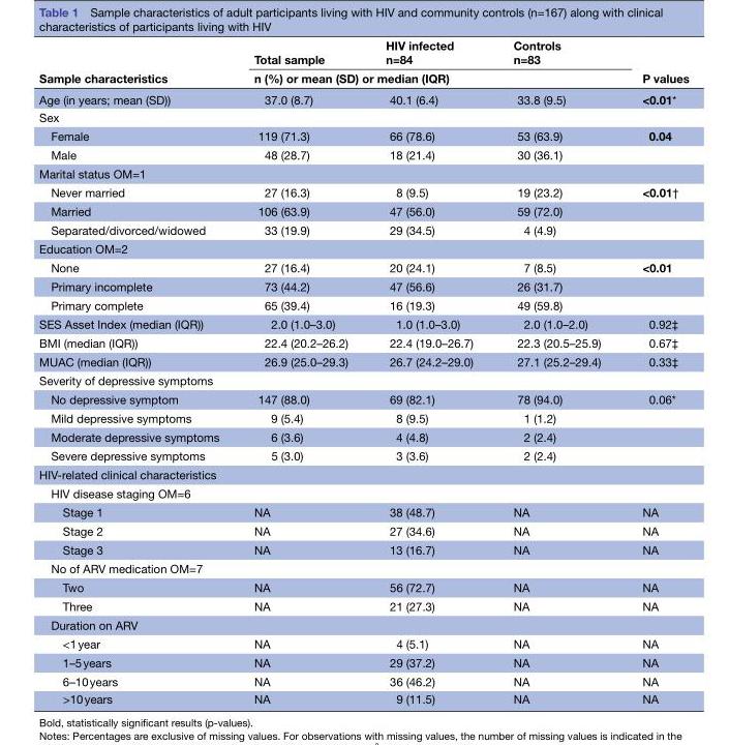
<table><thead><tr><td rowspan="2">Sample characteristics</td><td>Total sample</td><td>HIV infected n=84</td><td>Controls n=83</td><td rowspan="2">P values</td></tr><tr><td colspan="3">n (%) or mean (SD) or median (IQR)</td></tr></thead><tbody><tr><td>Age (in years; mean (SD))</td><td>37.0 (8.7)</td><td>40.1 (6.4)</td><td>33.8 (9.5)</td><td>&lt;0.01*</td></tr><tr><td colspan="5">Sex</td></tr><tr><td>Female</td><td>119 (71.3)</td><td>66 (78.6)</td><td>53 (63.9)</td><td>0.04</td></tr><tr><td>Male</td><td>48 (28.7)</td><td>18 (21.4)</td><td>30 (36.1)</td><td></td></tr><tr><td colspan="5">Marital status OM=1</td></tr><tr><td>Never married</td><td>27 (16.3)</td><td>8 (9.5)</td><td>19 (23.2)</td><td>&lt;0.01†</td></tr><tr><td>Married</td><td>106 (63.9)</td><td>47 (56.0)</td><td>59 (72.0)</td><td></td></tr><tr><td>Separated/divorced/widowed</td><td>33 (19.9)</td><td>29 (34.5)</td><td>4 (4.9)</td><td></td></tr><tr><td colspan="5">Education OM=2</td></tr><tr><td>None</td><td>27 (16.4)</td><td>20 (24.1)</td><td>7 (8.5)</td><td>&lt;0.01</td></tr><tr><td>Primary incomplete</td><td>73 (44.2)</td><td>47 (56.6)</td><td>26 (31.7)</td><td></td></tr><tr><td>Primary complete</td><td>65 (39.4)</td><td>16 (19.3)</td><td>49 (59.8)</td><td></td></tr><tr><td>SES Asset Index (median (IQR))</td><td>2.0 (1.0–3.0)</td><td>1.0 (1.0–3.0)</td><td>2.0 (1.0–2.0)</td><td>0.92‡</td></tr><tr><td>BMI (median (IQR))</td><td>22.4 (20.2–26.2)</td><td>22.4 (19.0–26.7)</td><td>22.3 (20.5–25.9)</td><td>0.67‡</td></tr><tr><td>MUAC (median (IQR))</td><td>26.9 (25.0–29.3)</td><td>26.7 (24.2–29.0)</td><td>27.1 (25.2–29.4)</td><td>0.33‡</td></tr><tr><td colspan="5">Severity of depressive symptoms</td></tr><tr><td>No depressive symptom</td><td>147 (88.0)</td><td>69 (82.1)</td><td>78 (94.0)</td><td>0.06*</td></tr><tr><td>Mild depressive symptoms</td><td>9 (5.4)</td><td>8 (9.5)</td><td>1 (1.2)</td><td></td></tr><tr><td>Moderate depressive symptoms</td><td>6 (3.6)</td><td>4 (4.8)</td><td>2 (2.4)</td><td></td></tr><tr><td>Severe depressive symptoms</td><td>5 (3.0)</td><td>3 (3.6)</td><td>2 (2.4)</td><td></td></tr><tr><td colspan="5">HIV-related clinical characteristics</td></tr><tr><td colspan="5">HIV disease staging OM=6</td></tr><tr><td>Stage 1</td><td>NA</td><td>38 (48.7)</td><td>NA</td><td>NA</td></tr><tr><td>Stage 2</td><td>NA</td><td>27 (34.6)</td><td>NA</td><td>NA</td></tr><tr><td>Stage 3</td><td>NA</td><td>13 (16.7)</td><td>NA</td><td>NA</td></tr><tr><td colspan="5">No of ARV medication OM=7</td></tr><tr><td>Two</td><td>NA</td><td>56 (72.7)</td><td>NA</td><td>NA</td></tr><tr><td>Three</td><td>NA</td><td>21 (27.3)</td><td>NA</td><td>NA</td></tr><tr><td colspan="5">Duration on ARV</td></tr><tr><td>&lt;1 year</td><td>NA</td><td>4 (5.1)</td><td>NA</td><td>NA</td></tr><tr><td>1–5 years</td><td>NA</td><td>29 (37.2)</td><td>NA</td><td>NA</td></tr><tr><td>6–10 years</td><td>NA</td><td>36 (46.2)</td><td>NA</td><td>NA</td></tr><tr><td>&gt;10 years</td><td>NA</td><td>9 (11.5)</td><td>NA</td><td>NA</td></tr></tbody></table>